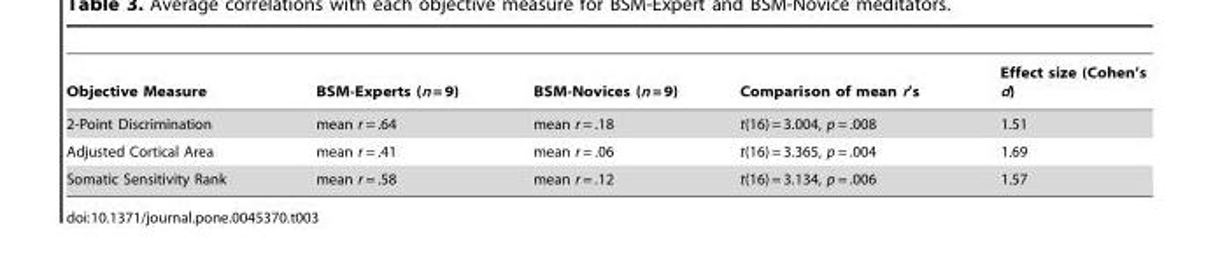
<table><thead><tr><td>Objective Measure</td><td>BSM-Experts (n = 9)</td><td>BSM-Novices (n = 9)</td><td>Comparison of mean r’s</td><td>Effect size (Cohen’s d)</td></tr></thead><tbody><tr><td>2-Point Discrimination</td><td>mean r = .64</td><td>mean r = .18</td><td>t(16) = 3.004, p = .008</td><td>1.51</td></tr><tr><td>Adjusted Cortical Area</td><td>mean r = .41</td><td>mean r = .06</td><td>t(16) = 3.365, p = .004</td><td>1.69</td></tr><tr><td>Somatic Sensitivity Rank</td><td>mean r = .58</td><td>mean r = .12</td><td>t(16) = 3.134, p = .006</td><td>1.57</td></tr></tbody></table>